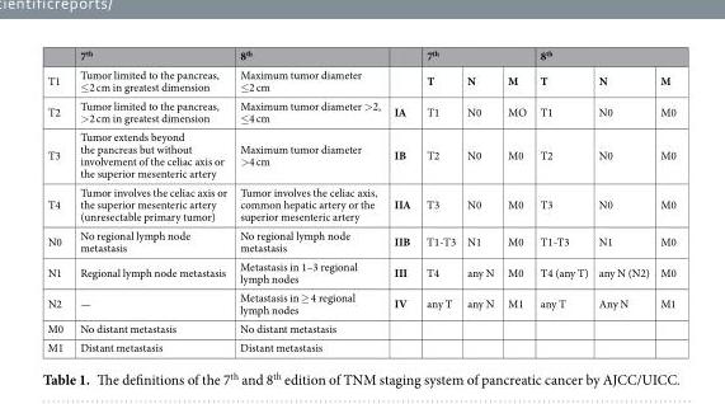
<table><thead><tr><td rowspan="2">T1</td><td rowspan="2">7<sup>th</sup> Tumor limited to the pancreas, ≤2 cm in greatest dimension</td><td rowspan="2">8<sup>th</sup> Maximum tumor diameter ≤2 cm</td><td rowspan="2"></td><td colspan="3">7<sup>th</sup></td><td colspan="3">8<sup>th</sup></td></tr><tr><td>T</td><td>N</td><td>M</td><td>T</td><td>N</td><td>M</td></tr></thead><tbody><tr><td>T2</td><td>Tumor limited to the pancreas, &gt;2 cm in greatest dimension</td><td>Maximum tumor diameter &gt;2, ≤4 cm</td><td>IA</td><td>T1</td><td>N0</td><td>MO</td><td>T1</td><td>N0</td><td>M0</td></tr><tr><td>T3</td><td>Tumor extends beyond the pancreas but without involvement of the celiac axis or the superior mesenteric artery</td><td>Maximum tumor diameter &gt;4 cm</td><td>IB</td><td>T2</td><td>N0</td><td>M0</td><td>T2</td><td>N0</td><td>M0</td></tr><tr><td>T4</td><td>Tumor involves the celiac axis or the superior mesenteric artery (unresectable primary tumor)</td><td>Tumor involves the celiac axis, common hepatic artery or the superior mesenteric artery</td><td>IIA</td><td>T3</td><td>N0</td><td>M0</td><td>T3</td><td>N0</td><td>M0</td></tr><tr><td>N0</td><td>No regional lymph node metastasis</td><td>No regional lymph node metastasis</td><td>IIB</td><td>T1-T3</td><td>N1</td><td>M0</td><td>T1-T3</td><td>N1</td><td>M0</td></tr><tr><td>N1</td><td>Regional lymph node metastasis</td><td>Metastasis in 1–3 regional lymph nodes</td><td>III</td><td>T4</td><td>any N</td><td>M0</td><td>T4 (any T)</td><td>any N (N2)</td><td>M0</td></tr><tr><td>N2</td><td>—</td><td>Metastasis in ≥ 4 regional lymph nodes</td><td>IV</td><td>any T</td><td>any N</td><td>M1</td><td>any T</td><td>Any N</td><td>M1</td></tr><tr><td>M0</td><td>No distant metastasis</td><td>No distant metastasis</td><td></td><td></td><td></td><td></td><td></td><td></td><td></td></tr><tr><td>M1</td><td>Distant metastasis</td><td>Distant metastasis</td><td></td><td></td><td></td><td></td><td></td><td></td><td></td></tr></tbody></table>